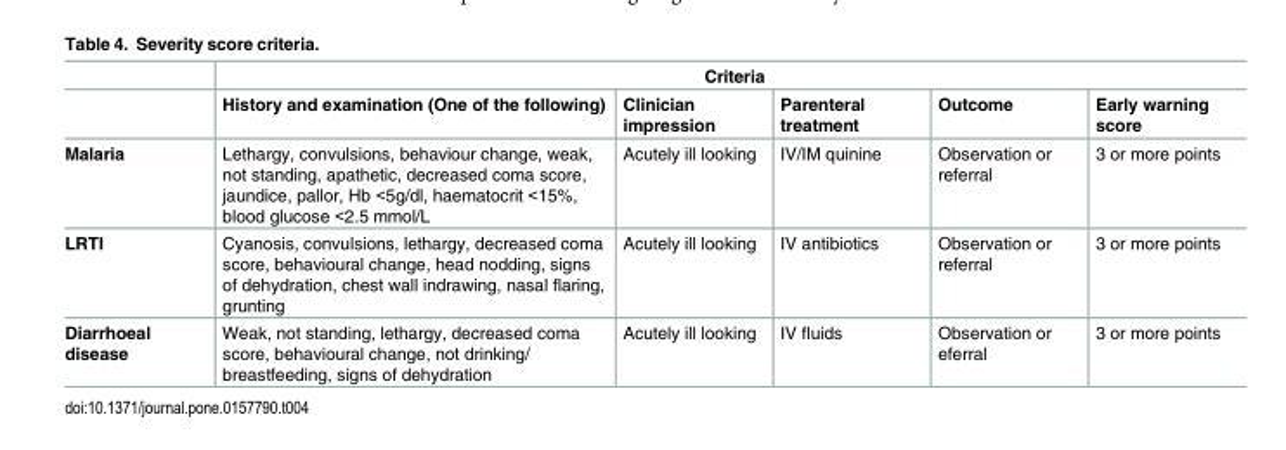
<table><thead><tr><td rowspan="2"></td><td colspan="5">Criteria</td></tr><tr><td>History and examination (One of the following)</td><td>Clinician impression</td><td>Parenteral treatment</td><td>Outcome</td><td>Early warning score</td></tr></thead><tbody><tr><td>Malaria</td><td>Lethargy, convulsions, behaviour change, weak, not standing, apathetic, decreased coma score, jaundice, pallor, Hb &lt;5g/dl, haematocrit &lt;15%, blood glucose &lt;2.5 mmol/L</td><td>Acutely ill looking</td><td>IV/IM quinine</td><td>Observation or referral</td><td>3 or more points</td></tr><tr><td>LRTI</td><td>Cyanosis, convulsions, lethargy, decreased coma score, behavioural change, head nodding, signs of dehydration, chest wall indrawing, nasal flaring, grunting</td><td>Acutely ill looking</td><td>IV antibiotics</td><td>Observation or referral</td><td>3 or more points</td></tr><tr><td>Diarrhoeal disease</td><td>Weak, not standing, lethargy, decreased coma score, behavioural change, not drinking/ breastfeeding, signs of dehydration</td><td>Acutely ill looking</td><td>IV fluids</td><td>Observation or eferral</td><td>3 or more points</td></tr></tbody></table>